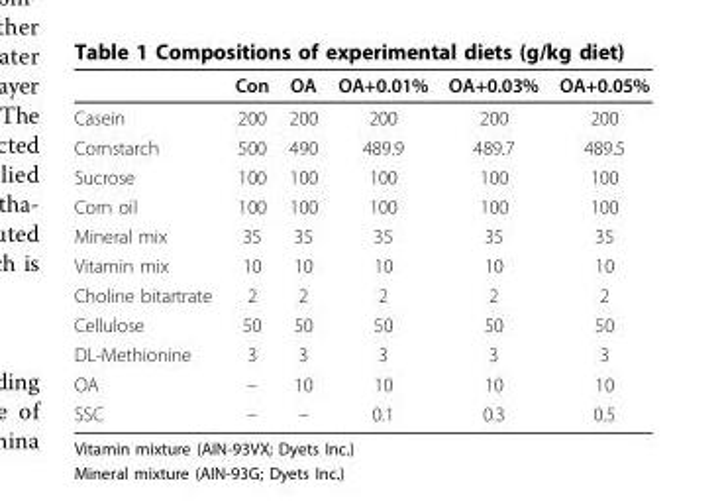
<table><thead><tr><td></td><td>Con</td><td>OA</td><td>OA+0.01%</td><td>OA+0.03%</td><td>OA+0.05%</td></tr></thead><tbody><tr><td>Casein</td><td>200</td><td>200</td><td>200</td><td>200</td><td>200</td></tr><tr><td>Cornstarch</td><td>500</td><td>490</td><td>489.9</td><td>489.7</td><td>489.5</td></tr><tr><td>Sucrose</td><td>100</td><td>100</td><td>100</td><td>100</td><td>100</td></tr><tr><td>Corn oil</td><td>100</td><td>100</td><td>100</td><td>100</td><td>100</td></tr><tr><td>Mineral mix</td><td>35</td><td>35</td><td>35</td><td>35</td><td>35</td></tr><tr><td>Vitamin mix</td><td>10</td><td>10</td><td>10</td><td>10</td><td>10</td></tr><tr><td>Choline bitartrate</td><td>2</td><td>2</td><td>2</td><td>2</td><td>2</td></tr><tr><td>Cellulose</td><td>50</td><td>50</td><td>50</td><td>50</td><td>50</td></tr><tr><td>DL-Methionine</td><td>3</td><td>3</td><td>3</td><td>3</td><td>3</td></tr><tr><td>OA</td><td>–</td><td>10</td><td>10</td><td>10</td><td>10</td></tr><tr><td>SSC</td><td>–</td><td>–</td><td>0.1</td><td>0.3</td><td>0.5</td></tr></tbody></table>